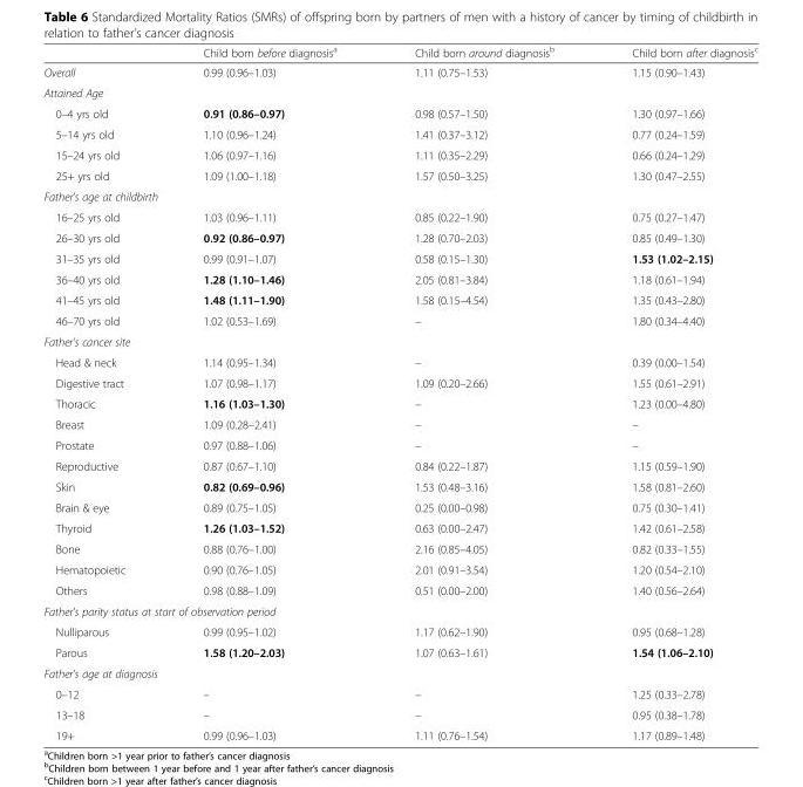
<table><thead><tr><td></td><td>Child born before diagnosis<sup>a</sup></td><td>Child born around diagnosis<sup>b</sup></td><td>Child born after diagnosis<sup>c</sup></td></tr></thead><tbody><tr><td>Overall</td><td>0.99 (0.96–1.03)</td><td>1.11 (0.75–1.53)</td><td>1.15 (0.90–1.43)</td></tr><tr><td colspan="4">Attained Age</td></tr><tr><td>0–4 yrs old</td><td>0.91 (0.86–0.97)</td><td>0.98 (0.57–1.50)</td><td>1.30 (0.97–1.66)</td></tr><tr><td>5–14 yrs old</td><td>1.10 (0.96–1.24)</td><td>1.41 (0.37–3.12)</td><td>0.77 (0.24–1.59)</td></tr><tr><td>15–24 yrs old</td><td>1.06 (0.97–1.16)</td><td>1.11 (0.35–2.29)</td><td>0.66 (0.24–1.29)</td></tr><tr><td>25+ yrs old</td><td>1.09 (1.00–1.18)</td><td>1.57 (0.50–3.25)</td><td>1.30 (0.47–2.55)</td></tr><tr><td colspan="4">Father&#x27;s age at childbirth</td></tr><tr><td>16–25 yrs old</td><td>1.03 (0.96–1.11)</td><td>0.85 (0.22–1.90)</td><td>0.75 (0.27–1.47)</td></tr><tr><td>26–30 yrs old</td><td>0.92 (0.86–0.97)</td><td>1.28 (0.70–2.03)</td><td>0.85 (0.49–1.30)</td></tr><tr><td>31–35 yrs old</td><td>0.99 (0.91–1.07)</td><td>0.58 (0.15–1.30)</td><td>1.53 (1.02–2.15)</td></tr><tr><td>36–40 yrs old</td><td>1.28 (1.10–1.46)</td><td>2.05 (0.81–3.84)</td><td>1.18 (0.61–1.94)</td></tr><tr><td>41–45 yrs old</td><td>1.48 (1.11–1.90)</td><td>1.58 (0.15–4.54)</td><td>1.35 (0.43–2.80)</td></tr><tr><td>46–70 yrs old</td><td>1.02 (0.53–1.69)</td><td>–</td><td>1.80 (0.34–4.40)</td></tr><tr><td colspan="4">Father&#x27;s cancer site</td></tr><tr><td>Head &amp; neck</td><td>1.14 (0.95–1.34)</td><td>–</td><td>0.39 (0.00–1.54)</td></tr><tr><td>Digestive tract</td><td>1.07 (0.98–1.17)</td><td>1.09 (0.20–2.66)</td><td>1.55 (0.61–2.91)</td></tr><tr><td>Thoracic</td><td>1.16 (1.03–1.30)</td><td>–</td><td>1.23 (0.00–4.80)</td></tr><tr><td>Breast</td><td>1.09 (0.28–2.41)</td><td>–</td><td>–</td></tr><tr><td>Prostate</td><td>0.97 (0.88–1.06)</td><td>–</td><td>–</td></tr><tr><td>Reproductive</td><td>0.87 (0.67–1.10)</td><td>0.84 (0.22–1.87)</td><td>1.15 (0.59–1.90)</td></tr><tr><td>Skin</td><td>0.82 (0.69–0.96)</td><td>1.53 (0.48–3.16)</td><td>1.58 (0.81–2.60)</td></tr><tr><td>Brain &amp; eye</td><td>0.89 (0.75–1.05)</td><td>0.25 (0.00–0.98)</td><td>0.75 (0.30–1.41)</td></tr><tr><td>Thyroid</td><td>1.26 (1.03–1.52)</td><td>0.63 (0.00–2.47)</td><td>1.42 (0.61–2.58)</td></tr><tr><td>Bone</td><td>0.88 (0.76–1.00)</td><td>2.16 (0.85–4.05)</td><td>0.82 (0.33–1.55)</td></tr><tr><td>Hematopoietic</td><td>0.90 (0.76–1.05)</td><td>2.01 (0.91–3.54)</td><td>1.20 (0.54–2.10)</td></tr><tr><td>Others</td><td>0.98 (0.88–1.09)</td><td>0.51 (0.00–2.00)</td><td>1.40 (0.56–2.64)</td></tr><tr><td colspan="4">Father&#x27;s parity status at start of observation period</td></tr><tr><td>Nulliparous</td><td>0.99 (0.95–1.02)</td><td>1.17 (0.62–1.90)</td><td>0.95 (0.68–1.28)</td></tr><tr><td>Parous</td><td>1.58 (1.20–2.03)</td><td>1.07 (0.63–1.61)</td><td>1.54 (1.06–2.10)</td></tr><tr><td colspan="4">Father&#x27;s age at diagnosis</td></tr><tr><td>0–12</td><td>–</td><td>–</td><td>1.25 (0.33–2.78)</td></tr><tr><td>13–18</td><td>–</td><td>–</td><td>0.95 (0.38–1.78)</td></tr><tr><td>19+</td><td>0.99 (0.96–1.03)</td><td>1.11 (0.76–1.54)</td><td>1.17 (0.89–1.48)</td></tr></tbody></table>